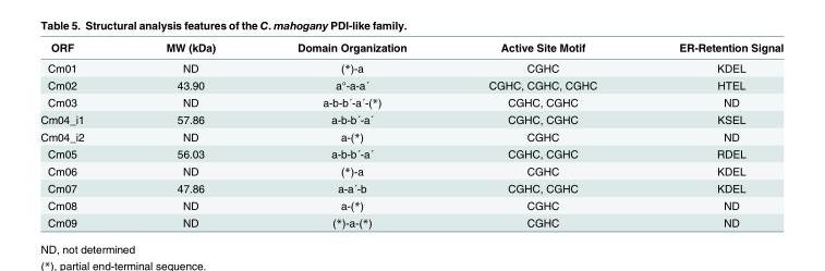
<table><thead><tr><td>ORF</td><td>MW (kDa)</td><td>Domain Organization</td><td>Active Site Motif</td><td>ER-Retention Signal</td></tr></thead><tbody><tr><td>Cm01</td><td>ND</td><td>(*)-a</td><td>CGHC</td><td>KDEL</td></tr><tr><td>Cm02</td><td>43.90</td><td>a°-a-a´</td><td>CGHC, CGHC, CGHC</td><td>HTEL</td></tr><tr><td>Cm03</td><td>ND</td><td>a-b-b´-a´-(*)</td><td>CGHC, CGHC</td><td>ND</td></tr><tr><td>Cm04_i1</td><td>57.86</td><td>a-b-b´-a´</td><td>CGHC, CGHC</td><td>KSEL</td></tr><tr><td>Cm04_i2</td><td>ND</td><td>a-(*)</td><td>CGHC</td><td>ND</td></tr><tr><td>Cm05</td><td>56.03</td><td>a-b-b´-a´</td><td>CGHC, CGHC</td><td>RDEL</td></tr><tr><td>Cm06</td><td>ND</td><td>(*)-a</td><td>CGHC</td><td>KDEL</td></tr><tr><td>Cm07</td><td>47.86</td><td>a-a´-b</td><td>CGHC, CGHC</td><td>KDEL</td></tr><tr><td>Cm08</td><td>ND</td><td>a-(*)</td><td>CGHC</td><td>ND</td></tr><tr><td>Cm09</td><td>ND</td><td>(*)-a-(*)</td><td>CGHC</td><td>ND</td></tr></tbody></table>